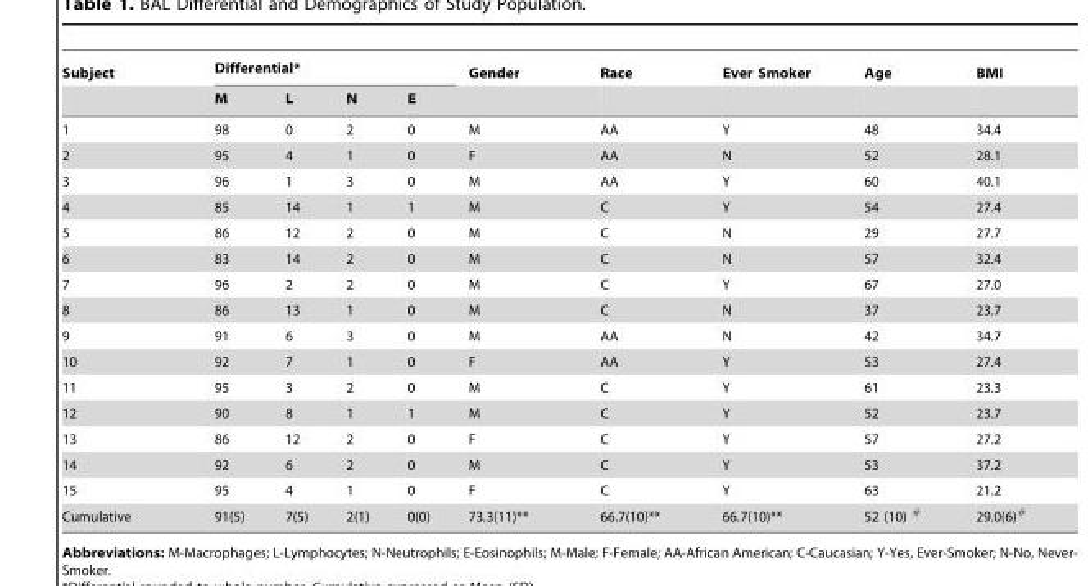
<table><thead><tr><td rowspan="2">Subject</td><td colspan="4">Differential*</td><td rowspan="2">Gender</td><td rowspan="2">Race</td><td rowspan="2">Ever Smoker</td><td rowspan="2">Age</td><td rowspan="2">BMI</td></tr><tr><td>M</td><td>L</td><td>N</td><td>E</td></tr></thead><tbody><tr><td>1</td><td>98</td><td>0</td><td>2</td><td>0</td><td>M</td><td>AA</td><td>Y</td><td>48</td><td>34.4</td></tr><tr><td>2</td><td>95</td><td>4</td><td>1</td><td>0</td><td>F</td><td>AA</td><td>N</td><td>52</td><td>28.1</td></tr><tr><td>3</td><td>96</td><td>1</td><td>3</td><td>0</td><td>M</td><td>AA</td><td>Y</td><td>60</td><td>40.1</td></tr><tr><td>4</td><td>85</td><td>14</td><td>1</td><td>1</td><td>M</td><td>C</td><td>Y</td><td>54</td><td>27.4</td></tr><tr><td>5</td><td>86</td><td>12</td><td>2</td><td>0</td><td>M</td><td>C</td><td>N</td><td>29</td><td>27.7</td></tr><tr><td>6</td><td>83</td><td>14</td><td>2</td><td>0</td><td>M</td><td>C</td><td>N</td><td>57</td><td>32.4</td></tr><tr><td>7</td><td>96</td><td>2</td><td>2</td><td>0</td><td>M</td><td>C</td><td>Y</td><td>67</td><td>27.0</td></tr><tr><td>8</td><td>86</td><td>13</td><td>1</td><td>0</td><td>M</td><td>C</td><td>N</td><td>37</td><td>23.7</td></tr><tr><td>9</td><td>91</td><td>6</td><td>3</td><td>0</td><td>M</td><td>AA</td><td>N</td><td>42</td><td>34.7</td></tr><tr><td>10</td><td>92</td><td>7</td><td>1</td><td>0</td><td>F</td><td>AA</td><td>Y</td><td>53</td><td>27.4</td></tr><tr><td>11</td><td>95</td><td>3</td><td>2</td><td>0</td><td>M</td><td>C</td><td>Y</td><td>61</td><td>23.3</td></tr><tr><td>12</td><td>90</td><td>8</td><td>1</td><td>1</td><td>M</td><td>C</td><td>Y</td><td>52</td><td>23.7</td></tr><tr><td>13</td><td>86</td><td>12</td><td>2</td><td>0</td><td>F</td><td>C</td><td>Y</td><td>57</td><td>27.2</td></tr><tr><td>14</td><td>92</td><td>6</td><td>2</td><td>0</td><td>M</td><td>C</td><td>Y</td><td>53</td><td>37.2</td></tr><tr><td>15</td><td>95</td><td>4</td><td>1</td><td>0</td><td>F</td><td>C</td><td>Y</td><td>63</td><td>21.2</td></tr><tr><td>Cumulative</td><td>91(5)</td><td>7(5)</td><td>2(1)</td><td>0(0)</td><td>73.3(11)**</td><td>66.7(10)**</td><td>66.7(10)**</td><td>52 (10) #</td><td>29.0(6)#</td></tr></tbody></table>